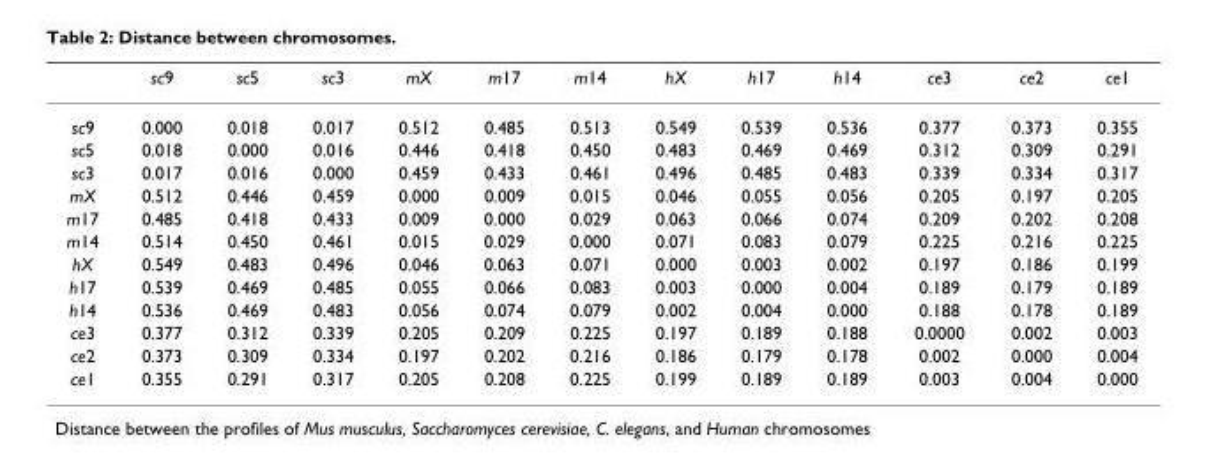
<table><thead><tr><td></td><td>sc9</td><td>sc5</td><td>sc3</td><td>mX</td><td>m17</td><td>m14</td><td>hX</td><td>h17</td><td>h14</td><td>ce3</td><td>ce2</td><td>ce1</td></tr></thead><tbody><tr><td>sc9</td><td>0.000</td><td>0.018</td><td>0.017</td><td>0.512</td><td>0.485</td><td>0.513</td><td>0.549</td><td>0.539</td><td>0.536</td><td>0.377</td><td>0.373</td><td>0.355</td></tr><tr><td>sc5</td><td>0.018</td><td>0.000</td><td>0.016</td><td>0.446</td><td>0.418</td><td>0.450</td><td>0.483</td><td>0.469</td><td>0.469</td><td>0.312</td><td>0.309</td><td>0.291</td></tr><tr><td>sc3</td><td>0.017</td><td>0.016</td><td>0.000</td><td>0.459</td><td>0.433</td><td>0.461</td><td>0.496</td><td>0.485</td><td>0.483</td><td>0.339</td><td>0.334</td><td>0.317</td></tr><tr><td>mX</td><td>0.512</td><td>0.446</td><td>0.459</td><td>0.000</td><td>0.009</td><td>0.015</td><td>0.046</td><td>0.055</td><td>0.056</td><td>0.205</td><td>0.197</td><td>0.205</td></tr><tr><td>m17</td><td>0.485</td><td>0.418</td><td>0.433</td><td>0.009</td><td>0.000</td><td>0.029</td><td>0.063</td><td>0.066</td><td>0.074</td><td>0.209</td><td>0.202</td><td>0.208</td></tr><tr><td>m14</td><td>0.514</td><td>0.450</td><td>0.461</td><td>0.015</td><td>0.029</td><td>0.000</td><td>0.071</td><td>0.083</td><td>0.079</td><td>0.225</td><td>0.216</td><td>0.225</td></tr><tr><td>hX</td><td>0.549</td><td>0.483</td><td>0.496</td><td>0.046</td><td>0.063</td><td>0.071</td><td>0.000</td><td>0.003</td><td>0.002</td><td>0.197</td><td>0.186</td><td>0.199</td></tr><tr><td>h17</td><td>0.539</td><td>0.469</td><td>0.485</td><td>0.055</td><td>0.066</td><td>0.083</td><td>0.003</td><td>0.000</td><td>0.004</td><td>0.189</td><td>0.179</td><td>0.189</td></tr><tr><td>h14</td><td>0.536</td><td>0.469</td><td>0.483</td><td>0.056</td><td>0.074</td><td>0.079</td><td>0.002</td><td>0.004</td><td>0.000</td><td>0.188</td><td>0.178</td><td>0.189</td></tr><tr><td>ce3</td><td>0.377</td><td>0.312</td><td>0.339</td><td>0.205</td><td>0.209</td><td>0.225</td><td>0.197</td><td>0.189</td><td>0.188</td><td>0.0000</td><td>0.002</td><td>0.003</td></tr><tr><td>ce2</td><td>0.373</td><td>0.309</td><td>0.334</td><td>0.197</td><td>0.202</td><td>0.216</td><td>0.186</td><td>0.179</td><td>0.178</td><td>0.002</td><td>0.000</td><td>0.004</td></tr><tr><td>ce1</td><td>0.355</td><td>0.291</td><td>0.317</td><td>0.205</td><td>0.208</td><td>0.225</td><td>0.199</td><td>0.189</td><td>0.189</td><td>0.003</td><td>0.004</td><td>0.000</td></tr></tbody></table>